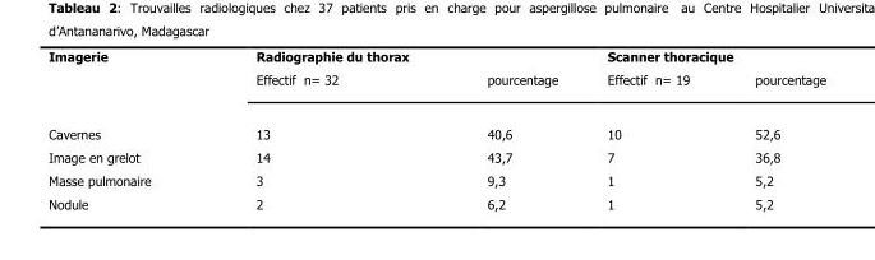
<table><thead><tr><td rowspan="2">Imagerie</td><td colspan="2">Radiographie du thorax</td><td colspan="2">Scanner thoracique</td></tr><tr><td>Effectif n= 32</td><td>pourcentage</td><td>Effectif n= 19</td><td>pourcentage</td></tr></thead><tbody><tr><td>Cavernes</td><td>13</td><td>40,6</td><td>10</td><td>52,6</td></tr><tr><td>Image en grelot</td><td>14</td><td>43,7</td><td>7</td><td>36,8</td></tr><tr><td>Masse pulmonaire</td><td>3</td><td>9,3</td><td>1</td><td>5,2</td></tr><tr><td>Nodule</td><td>2</td><td>6,2</td><td>1</td><td>5,2</td></tr></tbody></table>